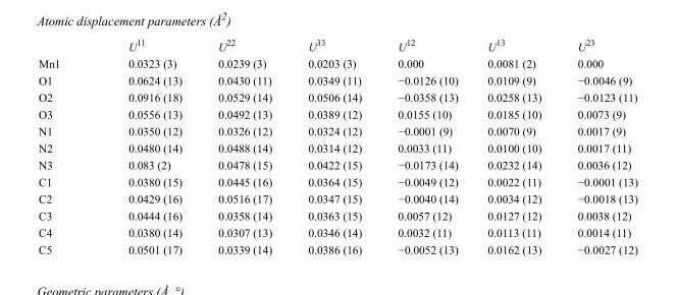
<table><thead><tr><td></td><td>U<sup>11</sup></td><td>U<sup>22</sup></td><td>U<sup>33</sup></td><td>U<sup>12</sup></td><td>U<sup>13</sup></td><td>U<sup>23</sup></td></tr></thead><tbody><tr><td>Mn1</td><td>0.0323 (3)</td><td>0.0239 (3)</td><td>0.0203 (3)</td><td>0.000</td><td>0.0081 (2)</td><td>0.000</td></tr><tr><td>O1</td><td>0.0624 (13)</td><td>0.0430 (11)</td><td>0.0349 (11)</td><td>−0.0126 (10)</td><td>0.0109 (9)</td><td>−0.0046 (9)</td></tr><tr><td>O2</td><td>0.0916 (18)</td><td>0.0529 (14)</td><td>0.0506 (14)</td><td>−0.0358 (13)</td><td>0.0258 (13)</td><td>−0.0123 (11)</td></tr><tr><td>O3</td><td>0.0556 (13)</td><td>0.0492 (13)</td><td>0.0389 (12)</td><td>0.0155 (10)</td><td>0.0185 (10)</td><td>0.0073 (9)</td></tr><tr><td>N1</td><td>0.0350 (12)</td><td>0.0326 (12)</td><td>0.0324 (12)</td><td>−0.0001 (9)</td><td>0.0070 (9)</td><td>0.0017 (9)</td></tr><tr><td>N2</td><td>0.0480 (14)</td><td>0.0488 (14)</td><td>0.0314 (12)</td><td>0.0033 (11)</td><td>0.0100 (10)</td><td>0.0017 (11)</td></tr><tr><td>N3</td><td>0.083 (2)</td><td>0.0478 (15)</td><td>0.0422 (15)</td><td>−0.0173 (14)</td><td>0.0232 (14)</td><td>0.0036 (12)</td></tr><tr><td>C1</td><td>0.0380 (15)</td><td>0.0445 (16)</td><td>0.0364 (15)</td><td>−0.0049 (12)</td><td>0.0022 (11)</td><td>−0.0001 (13)</td></tr><tr><td>C2</td><td>0.0429 (16)</td><td>0.0516 (17)</td><td>0.0347 (15)</td><td>−0.0040 (14)</td><td>0.0034 (12)</td><td>−0.0018 (13)</td></tr><tr><td>C3</td><td>0.0444 (16)</td><td>0.0358 (14)</td><td>0.0363 (15)</td><td>0.0057 (12)</td><td>0.0127 (12)</td><td>0.0038 (12)</td></tr><tr><td>C4</td><td>0.0380 (14)</td><td>0.0307 (13)</td><td>0.0346 (14)</td><td>0.0032 (11)</td><td>0.0113 (11)</td><td>0.0014 (11)</td></tr><tr><td>C5</td><td>0.0501 (17)</td><td>0.0339 (14)</td><td>0.0386 (16)</td><td>−0.0052 (13)</td><td>0.0162 (13)</td><td>−0.0027 (12)</td></tr></tbody></table>